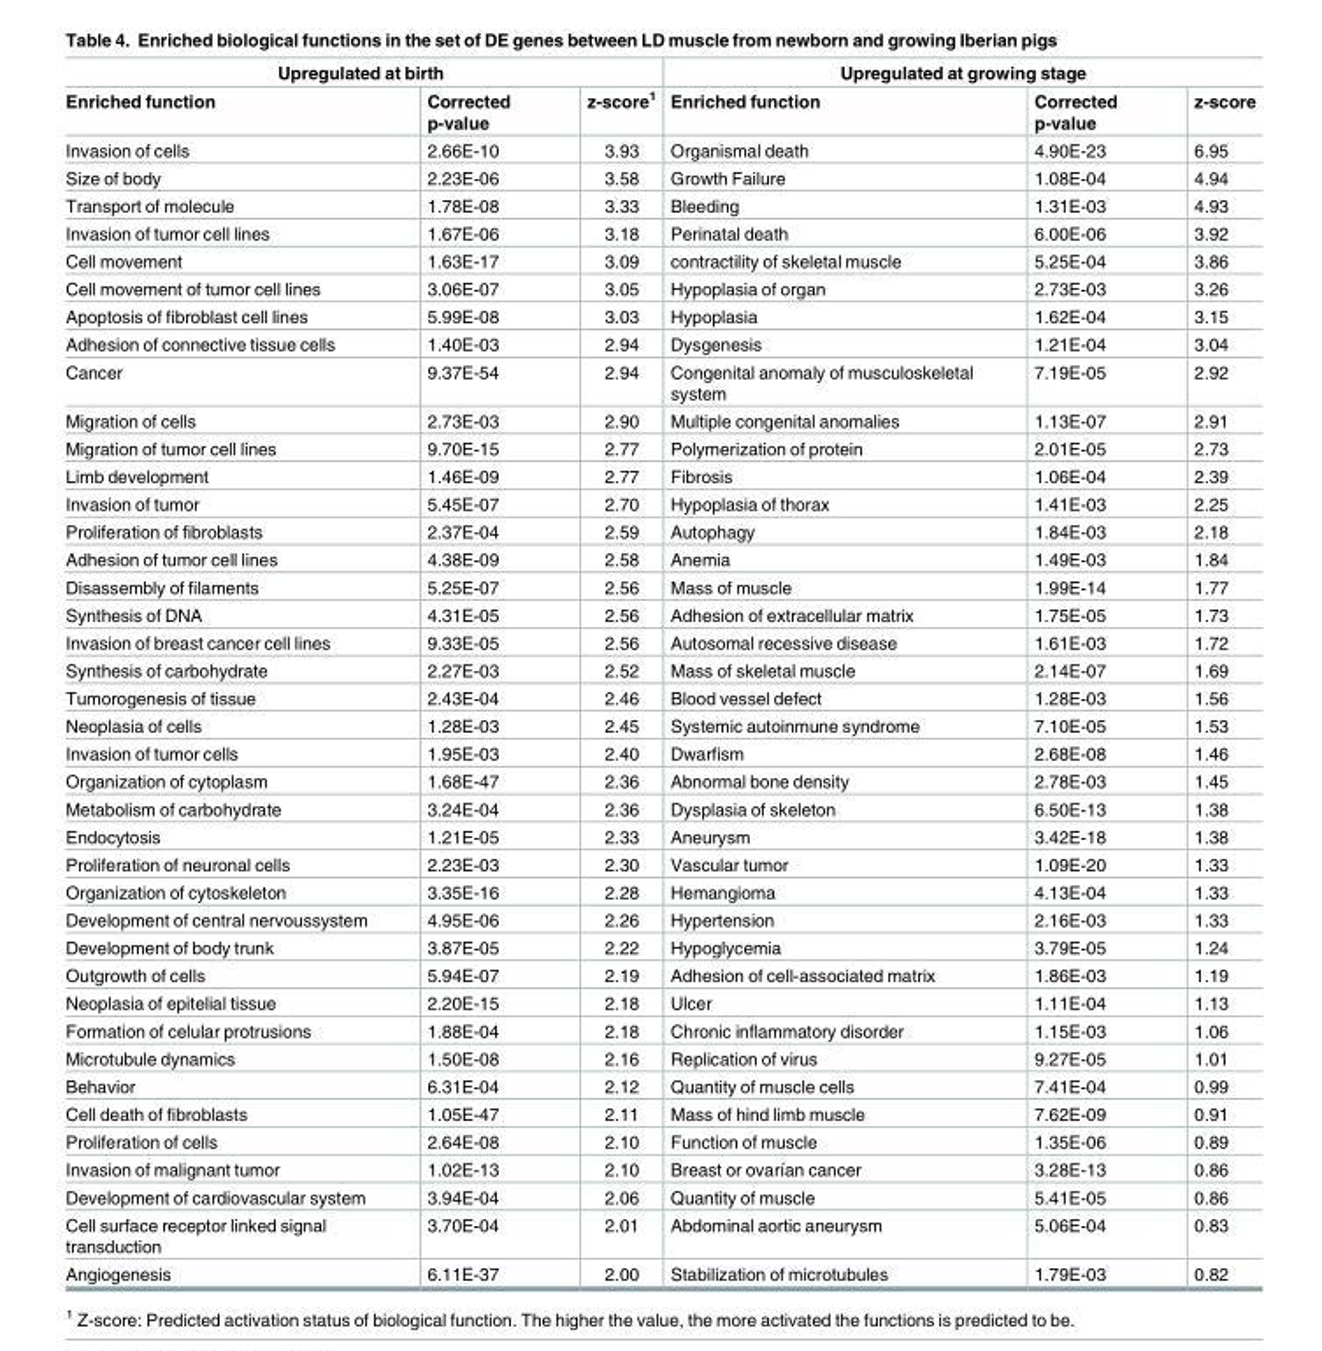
<table><thead><tr><td colspan="3">Upregulated at birth</td><td colspan="3">Upregulated at growing stage</td></tr><tr><td>Enriched function</td><td>Corrected p-value</td><td>z-score<sup>1</sup></td><td>Enriched function</td><td>Corrected p-value</td><td>z-score</td></tr></thead><tbody><tr><td>Invasion of cells</td><td>2.66E-10</td><td>3.93</td><td>Organismal death</td><td>4.90E-23</td><td>6.95</td></tr><tr><td>Size of body</td><td>2.23E-06</td><td>3.58</td><td>Growth Failure</td><td>1.08E-04</td><td>4.94</td></tr><tr><td>Transport of molecule</td><td>1.78E-08</td><td>3.33</td><td>Bleeding</td><td>1.31E-03</td><td>4.93</td></tr><tr><td>Invasion of tumor cell lines</td><td>1.67E-06</td><td>3.18</td><td>Perinatal death</td><td>6.00E-06</td><td>3.92</td></tr><tr><td>Cell movement</td><td>1.63E-17</td><td>3.09</td><td>contractility of skeletal muscle</td><td>5.25E-04</td><td>3.86</td></tr><tr><td>Cell movement of tumor cell lines</td><td>3.06E-07</td><td>3.05</td><td>Hypoplasia of organ</td><td>2.73E-03</td><td>3.26</td></tr><tr><td>Apoptosis of fibroblast cell lines</td><td>5.99E-08</td><td>3.03</td><td>Hypoplasia</td><td>1.62E-04</td><td>3.15</td></tr><tr><td>Adhesion of connective tissue cells</td><td>1.40E-03</td><td>2.94</td><td>Dysgenesis</td><td>1.21E-04</td><td>3.04</td></tr><tr><td>Cancer</td><td>9.37E-54</td><td>2.94</td><td>Congenital anomaly of musculoskeletal system</td><td>7.19E-05</td><td>2.92</td></tr><tr><td>Migration of cells</td><td>2.73E-03</td><td>2.90</td><td>Multiple congenital anomalies</td><td>1.13E-07</td><td>2.91</td></tr><tr><td>Migration of tumor cell lines</td><td>9.70E-15</td><td>2.77</td><td>Polymerization of protein</td><td>2.01E-05</td><td>2.73</td></tr><tr><td>Limb development</td><td>1.46E-09</td><td>2.77</td><td>Fibrosis</td><td>1.06E-04</td><td>2.39</td></tr><tr><td>Invasion of tumor</td><td>5.45E-07</td><td>2.70</td><td>Hypoplasia of thorax</td><td>1.41E-03</td><td>2.25</td></tr><tr><td>Proliferation of fibroblasts</td><td>2.37E-04</td><td>2.59</td><td>Autophagy</td><td>1.84E-03</td><td>2.18</td></tr><tr><td>Adhesion of tumor cell lines</td><td>4.38E-09</td><td>2.58</td><td>Anemia</td><td>1.49E-03</td><td>1.84</td></tr><tr><td>Disassembly of filaments</td><td>5.25E-07</td><td>2.56</td><td>Mass of muscle</td><td>1.99E-14</td><td>1.77</td></tr><tr><td>Synthesis of DNA</td><td>4.31E-05</td><td>2.56</td><td>Adhesion of extracellular matrix</td><td>1.75E-05</td><td>1.73</td></tr><tr><td>Invasion of breast cancer cell lines</td><td>9.33E-05</td><td>2.56</td><td>Autosomal recessive disease</td><td>1.61E-03</td><td>1.72</td></tr><tr><td>Synthesis of carbohydrate</td><td>2.27E-03</td><td>2.52</td><td>Mass of skeletal muscle</td><td>2.14E-07</td><td>1.69</td></tr><tr><td>Tumorogenesis of tissue</td><td>2.43E-04</td><td>2.46</td><td>Blood vessel defect</td><td>1.28E-03</td><td>1.56</td></tr><tr><td>Neoplasia of cells</td><td>1.28E-03</td><td>2.45</td><td>Systemic autoinmune syndrome</td><td>7.10E-05</td><td>1.53</td></tr><tr><td>Invasion of tumor cells</td><td>1.95E-03</td><td>2.40</td><td>Dwarfism</td><td>2.68E-08</td><td>1.46</td></tr><tr><td>Organization of cytoplasm</td><td>1.68E-47</td><td>2.36</td><td>Abnormal bone density</td><td>2.78E-03</td><td>1.45</td></tr><tr><td>Metabolism of carbohydrate</td><td>3.24E-04</td><td>2.36</td><td>Dysplasia of skeleton</td><td>6.50E-13</td><td>1.38</td></tr><tr><td>Endocytosis</td><td>1.21E-05</td><td>2.33</td><td>Aneurysm</td><td>3.42E-18</td><td>1.38</td></tr><tr><td>Proliferation of neuronal cells</td><td>2.23E-03</td><td>2.30</td><td>Vascular tumor</td><td>1.09E-20</td><td>1.33</td></tr><tr><td>Organization of cytoskeleton</td><td>3.35E-16</td><td>2.28</td><td>Hemangioma</td><td>4.13E-04</td><td>1.33</td></tr><tr><td>Development of central nervoussystem</td><td>4.95E-06</td><td>2.26</td><td>Hypertension</td><td>2.16E-03</td><td>1.33</td></tr><tr><td>Development of body trunk</td><td>3.87E-05</td><td>2.22</td><td>Hypoglycemia</td><td>3.79E-05</td><td>1.24</td></tr><tr><td>Outgrowth of cells</td><td>5.94E-07</td><td>2.19</td><td>Adhesion of cell-associated matrix</td><td>1.86E-03</td><td>1.19</td></tr><tr><td>Neoplasia of epitelial tissue</td><td>2.20E-15</td><td>2.18</td><td>Ulcer</td><td>1.11E-04</td><td>1.13</td></tr><tr><td>Formation of celular protrusions</td><td>1.88E-04</td><td>2.18</td><td>Chronic inflammatory disorder</td><td>1.15E-03</td><td>1.06</td></tr><tr><td>Microtubule dynamics</td><td>1.50E-08</td><td>2.16</td><td>Replication of virus</td><td>9.27E-05</td><td>1.01</td></tr><tr><td>Behavior</td><td>6.31E-04</td><td>2.12</td><td>Quantity of muscle cells</td><td>7.41E-04</td><td>0.99</td></tr><tr><td>Cell death of fibroblasts</td><td>1.05E-47</td><td>2.11</td><td>Mass of hind limb muscle</td><td>7.62E-09</td><td>0.91</td></tr><tr><td>Proliferation of cells</td><td>2.64E-08</td><td>2.10</td><td>Function of muscle</td><td>1.35E-06</td><td>0.89</td></tr><tr><td>Invasion of malignant tumor</td><td>1.02E-13</td><td>2.10</td><td>Breast or ovarı´an cancer</td><td>3.28E-13</td><td>0.86</td></tr><tr><td>Development of cardiovascular system</td><td>3.94E-04</td><td>2.06</td><td>Quantity of muscle</td><td>5.41E-05</td><td>0.86</td></tr><tr><td>Cell surface receptor linked signal transduction</td><td>3.70E-04</td><td>2.01</td><td>Abdominal aortic aneurysm</td><td>5.06E-04</td><td>0.83</td></tr><tr><td>Angiogenesis</td><td>6.11E-37</td><td>2.00</td><td>Stabilization of microtubules</td><td>1.79E-03</td><td>0.82</td></tr></tbody></table>